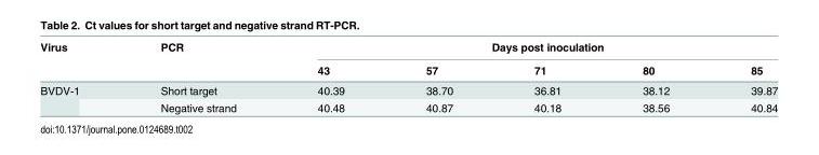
<table><thead><tr><td rowspan="2">Virus</td><td rowspan="2">PCR</td><td colspan="5">Days post inoculation</td></tr><tr><td>43</td><td>57</td><td>71</td><td>80</td><td>85</td></tr></thead><tbody><tr><td rowspan="2">BVDV-1</td><td>Short target</td><td>40.39</td><td>38.70</td><td>36.81</td><td>38.12</td><td>39.87</td></tr><tr><td>Negative strand</td><td>40.48</td><td>40.87</td><td>40.18</td><td>38.56</td><td>40.84</td></tr></tbody></table>